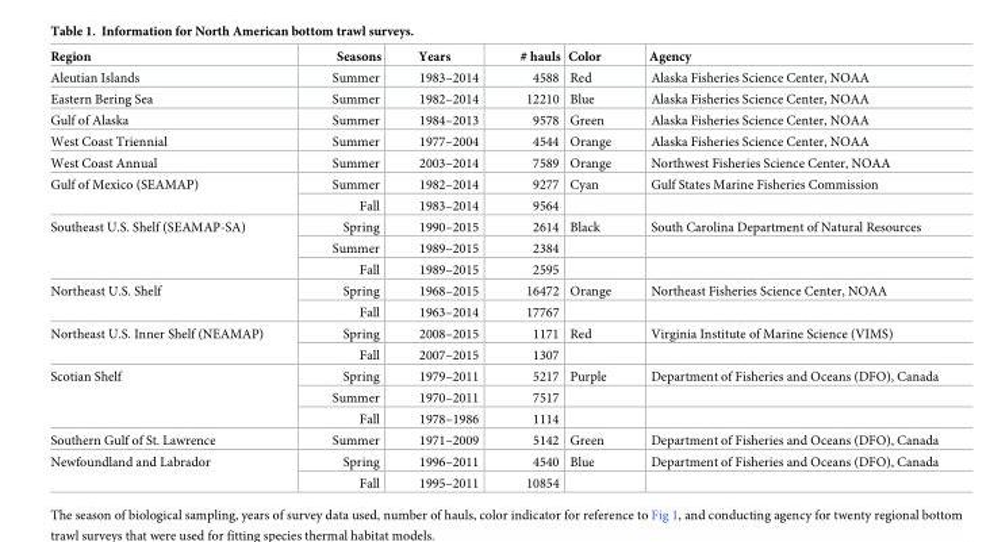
<table><thead><tr><td>Region</td><td>Seasons</td><td>Years</td><td># hauls</td><td>Color</td><td>Agency</td></tr></thead><tbody><tr><td>Aleutian Islands</td><td>Summer</td><td>1983–2014</td><td>4588</td><td>Red</td><td>Alaska Fisheries Science Center, NOAA</td></tr><tr><td>Eastern Bering Sea</td><td>Summer</td><td>1982–2014</td><td>12210</td><td>Blue</td><td>Alaska Fisheries Science Center, NOAA</td></tr><tr><td>Gulf of Alaska</td><td>Summer</td><td>1984–2013</td><td>9578</td><td>Green</td><td>Alaska Fisheries Science Center, NOAA</td></tr><tr><td>West Coast Triennial</td><td>Summer</td><td>1977–2004</td><td>4544</td><td>Orange</td><td>Alaska Fisheries Science Center, NOAA</td></tr><tr><td>West Coast Annual</td><td>Summer</td><td>2003–2014</td><td>7589</td><td>Orange</td><td>Northwest Fisheries Science Center, NOAA</td></tr><tr><td rowspan="2">Gulf of Mexico (SEAMAP)</td><td>Summer</td><td>1982–2014</td><td>9277</td><td>Cyan</td><td>Gulf States Marine Fisheries Commission</td></tr><tr><td>Fall</td><td>1983–2014</td><td>9564</td><td></td><td></td></tr><tr><td rowspan="3">Southeast U.S. Shelf (SEAMAP-SA)</td><td>Spring</td><td>1990–2015</td><td>2614</td><td>Black</td><td>South Carolina Department of Natural Resources</td></tr><tr><td>Summer</td><td>1989–2015</td><td>2384</td><td></td><td></td></tr><tr><td>Fall</td><td>1989–2015</td><td>2595</td><td></td><td></td></tr><tr><td rowspan="2">Northeast U.S. Shelf</td><td>Spring</td><td>1968–2015</td><td>16472</td><td>Orange</td><td>Northeast Fisheries Science Center, NOAA</td></tr><tr><td>Fall</td><td>1963–2014</td><td>17767</td><td></td><td></td></tr><tr><td rowspan="2">Northeast U.S. Inner Shelf (NEAMAP)</td><td>Spring</td><td>2008–2015</td><td>1171</td><td>Red</td><td>Virginia Institute of Marine Science (VIMS)</td></tr><tr><td>Fall</td><td>2007–2015</td><td>1307</td><td></td><td></td></tr><tr><td rowspan="3">Scotian Shelf</td><td>Spring</td><td>1979–2011</td><td>5217</td><td>Purple</td><td>Department of Fisheries and Oceans (DFO), Canada</td></tr><tr><td>Summer</td><td>1970–2011</td><td>7517</td><td></td><td></td></tr><tr><td>Fall</td><td>1978–1986</td><td>1114</td><td></td><td></td></tr><tr><td>Southern Gulf of St. Lawrence</td><td>Summer</td><td>1971–2009</td><td>5142</td><td>Green</td><td>Department of Fisheries and Oceans (DFO), Canada</td></tr><tr><td rowspan="2">Newfoundland and Labrador</td><td>Spring</td><td>1996–2011</td><td>4540</td><td>Blue</td><td>Department of Fisheries and Oceans (DFO), Canada</td></tr><tr><td>Fall</td><td>1995–2011</td><td>10854</td><td></td><td></td></tr></tbody></table>